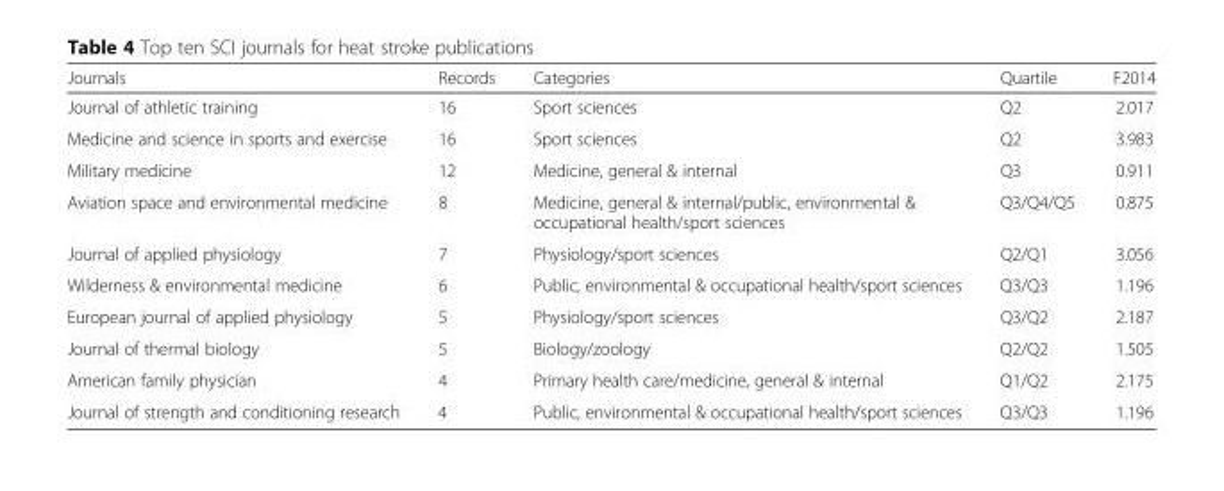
<table><thead><tr><td>Journals</td><td>Records</td><td>Categories</td><td>Quartile</td><td>F2014</td></tr></thead><tbody><tr><td>Journal of athletic training</td><td>16</td><td>Sport sciences</td><td>Q2</td><td>2.017</td></tr><tr><td>Medicine and science in sports and exercise</td><td>16</td><td>Sport sciences</td><td>Q2</td><td>3.983</td></tr><tr><td>Military medicine</td><td>12</td><td>Medicine, general &amp; internal</td><td>Q3</td><td>0.911</td></tr><tr><td>Aviation space and environmental medicine</td><td>8</td><td>Medicine, general &amp; internal/public, environmental &amp; occupational health/sport sciences</td><td>Q3/Q4/Q5</td><td>0.875</td></tr><tr><td>Journal of applied physiology</td><td>7</td><td>Physiology/sport sciences</td><td>Q2/Q1</td><td>3.056</td></tr><tr><td>Wilderness &amp; environmental medicine</td><td>6</td><td>Public, environmental &amp; occupational health/sport sciences</td><td>Q3/Q3</td><td>1.196</td></tr><tr><td>European journal of applied physiology</td><td>5</td><td>Physiology/sport sciences</td><td>Q3/Q2</td><td>2.187</td></tr><tr><td>Journal of thermal biology</td><td>5</td><td>Biology/zoology</td><td>Q2/Q2</td><td>1.505</td></tr><tr><td>American family physician</td><td>4</td><td>Primary health care/medicine, general &amp; internal</td><td>Q1/Q2</td><td>2.175</td></tr><tr><td>Journal of strength and conditioning research</td><td>4</td><td>Public, environmental &amp; occupational health/sport sciences</td><td>Q3/Q3</td><td>1.196</td></tr></tbody></table>